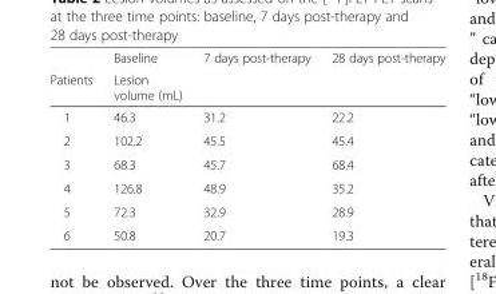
<table><thead><tr><td rowspan="2">Patients</td><td rowspan="2">Baseline Lesion volume (mL)</td><td rowspan="2">7 days post-therapy</td><td rowspan="2">28 days post-therapy</td></tr><tr></tr></thead><tbody><tr><td>1</td><td>46.3</td><td>31.2</td><td>22.2</td></tr><tr><td>2</td><td>102.2</td><td>45.5</td><td>45.4</td></tr><tr><td>3</td><td>68.3</td><td>45.7</td><td>68.4</td></tr><tr><td>4</td><td>126.8</td><td>48.9</td><td>35.2</td></tr><tr><td>5</td><td>72.3</td><td>32.9</td><td>28.9</td></tr><tr><td>6</td><td>50.8</td><td>20.7</td><td>19.3</td></tr></tbody></table>